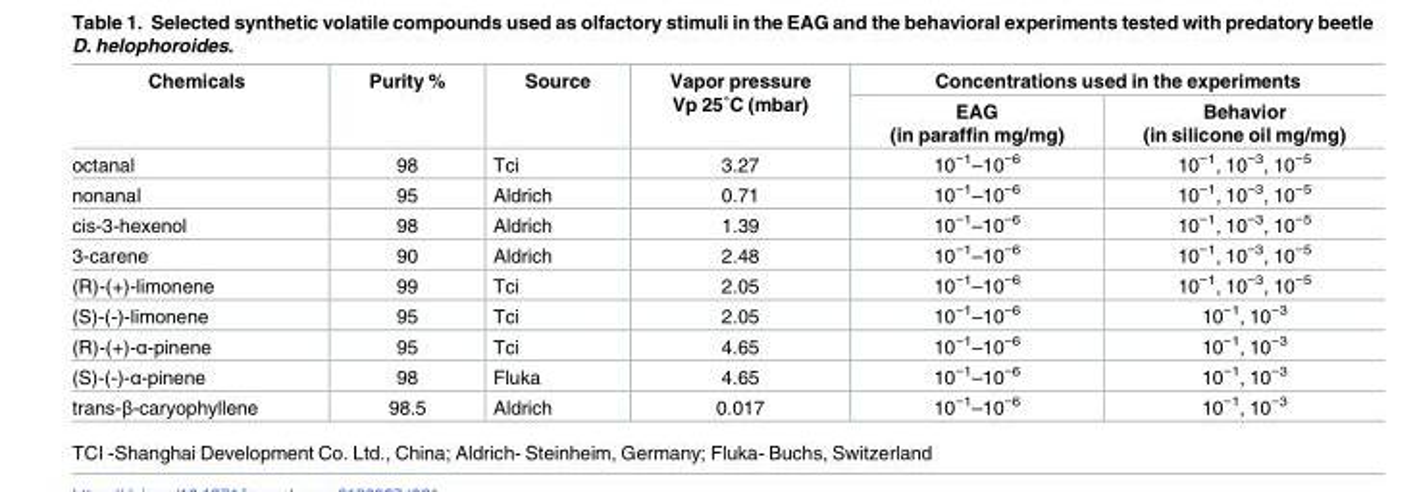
<table><thead><tr><td rowspan="2">Chemicals</td><td rowspan="2">Purity %</td><td rowspan="2">Source</td><td rowspan="2">Vapor pressure Vp 25˚C (mbar)</td><td colspan="2">Concentrations used in the experiments</td></tr><tr><td>EAG (in paraffin mg/mg)</td><td>Behavior (in silicone oil mg/mg)</td></tr></thead><tbody><tr><td>octanal</td><td>98</td><td>Tci</td><td>3.27</td><td>10<sup>−1</sup>–10<sup>−6</sup></td><td>10<sup>−1</sup>, 10<sup>−3</sup>, 10<sup>−5</sup></td></tr><tr><td>nonanal</td><td>95</td><td>Aldrich</td><td>0.71</td><td>10<sup>−1</sup>–10<sup>−6</sup></td><td>10<sup>−1</sup>, 10<sup>−3</sup>, 10<sup>−5</sup></td></tr><tr><td>cis-3-hexenol</td><td>98</td><td>Aldrich</td><td>1.39</td><td>10<sup>−1</sup>–10<sup>−6</sup></td><td>10<sup>−1</sup>, 10<sup>−3</sup>, 10<sup>−5</sup></td></tr><tr><td>3-carene</td><td>90</td><td>Aldrich</td><td>2.48</td><td>10<sup>−1</sup>–10<sup>−6</sup></td><td>10<sup>−1</sup>, 10<sup>−3</sup>, 10<sup>−5</sup></td></tr><tr><td>(R)-(+)-limonene</td><td>99</td><td>Tci</td><td>2.05</td><td>10<sup>−1</sup>–10<sup>−6</sup></td><td>10<sup>−1</sup>, 10<sup>−3</sup>, 10<sup>−5</sup></td></tr><tr><td>(S)-(-)-limonene</td><td>95</td><td>Tci</td><td>2.05</td><td>10<sup>−1</sup>–10<sup>−6</sup></td><td>10<sup>−1</sup>, 10<sup>−3</sup></td></tr><tr><td>(R)-(+)-α-pinene</td><td>95</td><td>Tci</td><td>4.65</td><td>10<sup>−1</sup>–10<sup>−6</sup></td><td>10<sup>−1</sup>, 10<sup>−3</sup></td></tr><tr><td>(S)-(-)-α-pinene</td><td>98</td><td>Fluka</td><td>4.65</td><td>10<sup>−1</sup>–10<sup>−6</sup></td><td>10<sup>−1</sup>, 10<sup>−3</sup></td></tr><tr><td>trans-β-caryophyllene</td><td>98.5</td><td>Aldrich</td><td>0.017</td><td>10<sup>−1</sup>–10<sup>−6</sup></td><td>10<sup>−1</sup>, 10<sup>−3</sup></td></tr></tbody></table>